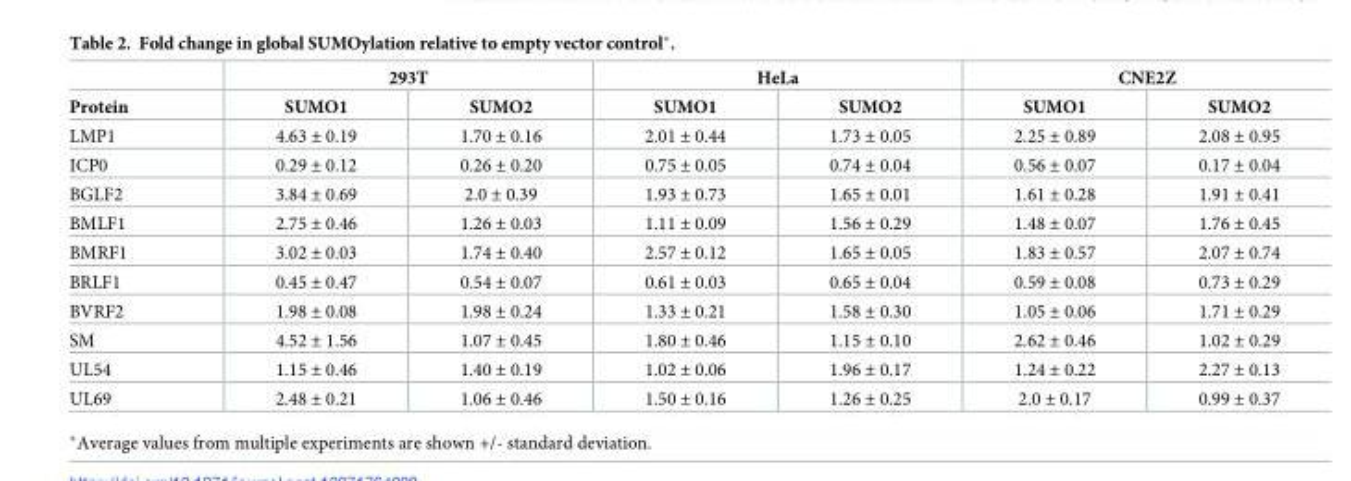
<table><thead><tr><td rowspan="2">Protein</td><td colspan="2">293T</td><td colspan="2">HeLa</td><td colspan="2">CNE2Z</td></tr><tr><td>SUMO1</td><td>SUMO2</td><td>SUMO1</td><td>SUMO2</td><td>SUMO1</td><td>SUMO2</td></tr></thead><tbody><tr><td>LMP1</td><td>4.63 ± 0.19</td><td>1.70 ± 0.16</td><td>2.01 ± 0.44</td><td>1.73 ± 0.05</td><td>2.25 ± 0.89</td><td>2.08 ± 0.95</td></tr><tr><td>ICP0</td><td>0.29 ± 0.12</td><td>0.26 ± 0.20</td><td>0.75 ± 0.05</td><td>0.74 ± 0.04</td><td>0.56 ± 0.07</td><td>0.17 ± 0.04</td></tr><tr><td>BGLF2</td><td>3.84 ± 0.69</td><td>2.0 ± 0.39</td><td>1.93 ± 0.73</td><td>1.65 ± 0.01</td><td>1.61 ± 0.28</td><td>1.91 ± 0.41</td></tr><tr><td>BMLF1</td><td>2.75 ± 0.46</td><td>1.26 ± 0.03</td><td>1.11 ± 0.09</td><td>1.56 ± 0.29</td><td>1.48 ± 0.07</td><td>1.76 ± 0.45</td></tr><tr><td>BMRF1</td><td>3.02 ± 0.03</td><td>1.74 ± 0.40</td><td>2.57 ± 0.12</td><td>1.65 ± 0.05</td><td>1.83 ± 0.57</td><td>2.07 ± 0.74</td></tr><tr><td>BRLF1</td><td>0.45 ± 0.47</td><td>0.54 ± 0.07</td><td>0.61 ± 0.03</td><td>0.65 ± 0.04</td><td>0.59 ± 0.08</td><td>0.73 ± 0.29</td></tr><tr><td>BVRF2</td><td>1.98 ± 0.08</td><td>1.98 ± 0.24</td><td>1.33 ± 0.21</td><td>1.58 ± 0.30</td><td>1.05 ± 0.06</td><td>1.71 ± 0.29</td></tr><tr><td>SM</td><td>4.52 ± 1.56</td><td>1.07 ± 0.45</td><td>1.80 ± 0.46</td><td>1.15 ± 0.10</td><td>2.62 ± 0.46</td><td>1.02 ± 0.29</td></tr><tr><td>UL54</td><td>1.15 ± 0.46</td><td>1.40 ± 0.19</td><td>1.02 ± 0.06</td><td>1.96 ± 0.17</td><td>1.24 ± 0.22</td><td>2.27 ± 0.13</td></tr><tr><td>UL69</td><td>2.48 ± 0.21</td><td>1.06 ± 0.46</td><td>1.50 ± 0.16</td><td>1.26 ± 0.25</td><td>2.0 ± 0.17</td><td>0.99 ± 0.37</td></tr></tbody></table>